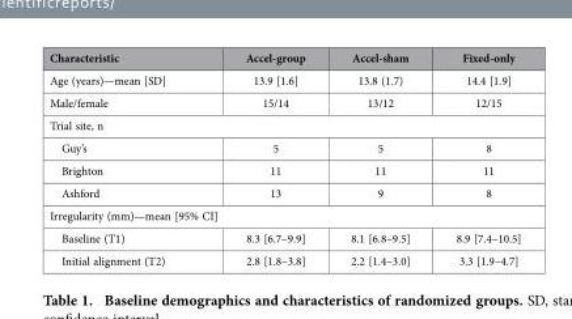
<table><thead><tr><td>Characteristic</td><td>Accel-group</td><td>Accel-sham</td><td>Fixed-only</td></tr></thead><tbody><tr><td>Age (years)—mean [SD]</td><td>13.9 [1.6]</td><td>13.8 (1.7)</td><td>14.4 [1.9]</td></tr><tr><td>Male/female</td><td>15/14</td><td>13/12</td><td>12/15</td></tr><tr><td colspan="4">Trial site, n</td></tr><tr><td>Guy’s</td><td>5</td><td>5</td><td>8</td></tr><tr><td>Brighton</td><td>11</td><td>11</td><td>11</td></tr><tr><td>Ashford</td><td>13</td><td>9</td><td>8</td></tr><tr><td colspan="4">Irregularity (mm)—mean [95% CI]</td></tr><tr><td>Baseline (T1)</td><td>8.3 [6.7–9.9]</td><td>8.1 [6.8–9.5]</td><td>8.9 [7.4–10.5]</td></tr><tr><td>Initial alignment (T2)</td><td>2.8 [1.8–3.8]</td><td>2.2 [1.4–3.0]</td><td>3.3 [1.9–4.7]</td></tr></tbody></table>